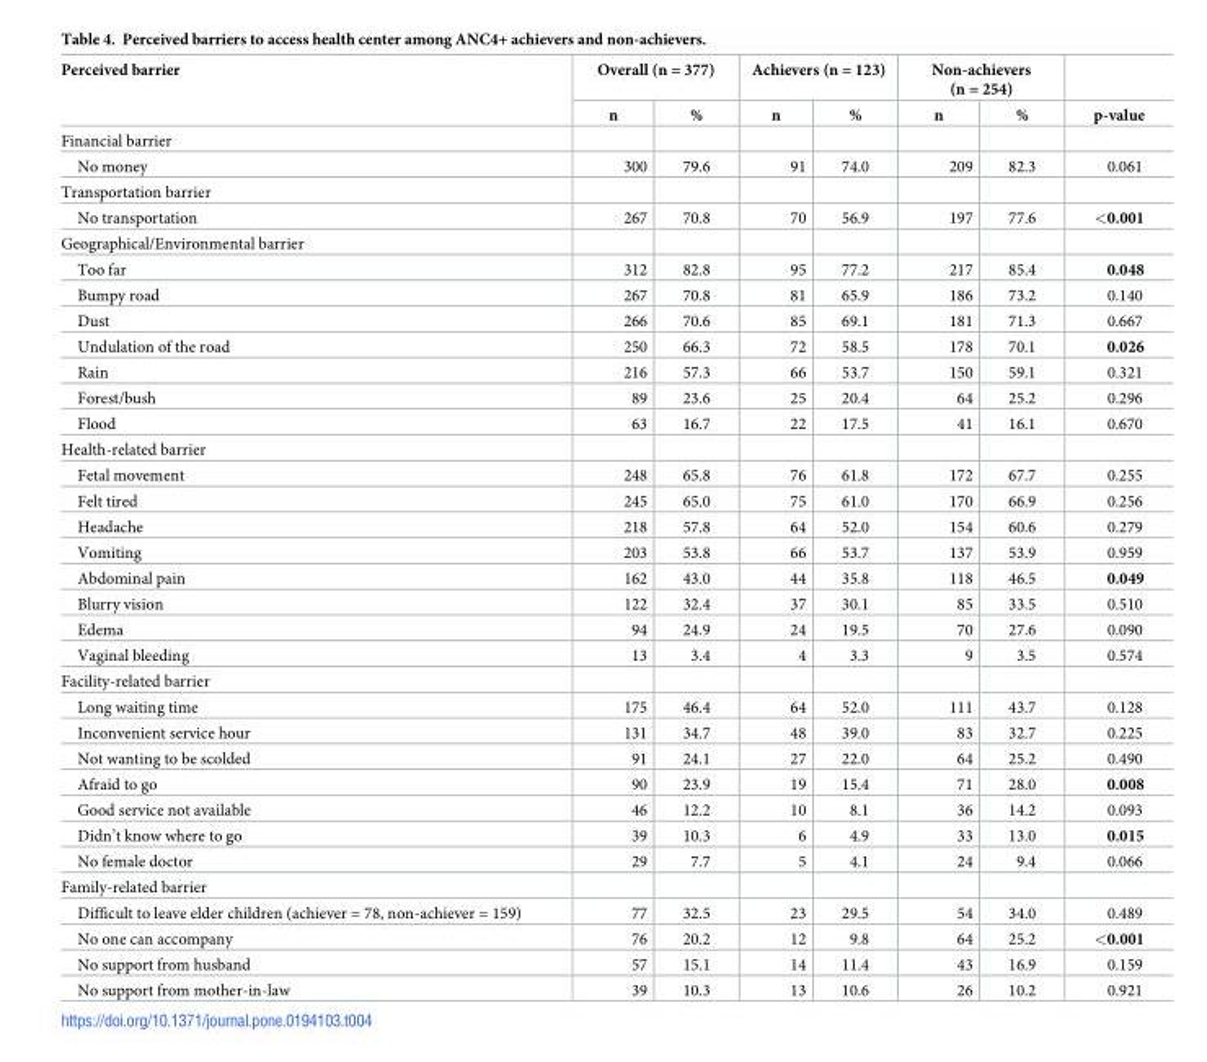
<table><thead><tr><td rowspan="2">Perceived barrier</td><td colspan="2">Overall (n = 377)</td><td colspan="2">Achievers (n = 123)</td><td colspan="2">Non-achievers (n = 254)</td><td rowspan="2">p-value</td></tr><tr><td>n</td><td>%</td><td>n</td><td>%</td><td>n</td><td>%</td></tr></thead><tbody><tr><td colspan="8">Financial barrier</td></tr><tr><td>No money</td><td>300</td><td>79.6</td><td>91</td><td>74.0</td><td>209</td><td>82.3</td><td>0.061</td></tr><tr><td colspan="8">Transportation barrier</td></tr><tr><td>No transportation</td><td>267</td><td>70.8</td><td>70</td><td>56.9</td><td>197</td><td>77.6</td><td>&lt;0.001</td></tr><tr><td colspan="8">Geographical/Environmental barrier</td></tr><tr><td>Too far</td><td>312</td><td>82.8</td><td>95</td><td>77.2</td><td>217</td><td>85.4</td><td>0.048</td></tr><tr><td>Bumpy road</td><td>267</td><td>70.8</td><td>81</td><td>65.9</td><td>186</td><td>73.2</td><td>0.140</td></tr><tr><td>Dust</td><td>266</td><td>70.6</td><td>85</td><td>69.1</td><td>181</td><td>71.3</td><td>0.667</td></tr><tr><td>Undulation of the road</td><td>250</td><td>66.3</td><td>72</td><td>58.5</td><td>178</td><td>70.1</td><td>0.026</td></tr><tr><td>Rain</td><td>216</td><td>57.3</td><td>66</td><td>53.7</td><td>150</td><td>59.1</td><td>0.321</td></tr><tr><td>Forest/bush</td><td>89</td><td>23.6</td><td>25</td><td>20.4</td><td>64</td><td>25.2</td><td>0.296</td></tr><tr><td>Flood</td><td>63</td><td>16.7</td><td>22</td><td>17.5</td><td>41</td><td>16.1</td><td>0.670</td></tr><tr><td colspan="8">Health-related barrier</td></tr><tr><td>Fetal movement</td><td>248</td><td>65.8</td><td>76</td><td>61.8</td><td>172</td><td>67.7</td><td>0.255</td></tr><tr><td>Felt tired</td><td>245</td><td>65.0</td><td>75</td><td>61.0</td><td>170</td><td>66.9</td><td>0.256</td></tr><tr><td>Headache</td><td>218</td><td>57.8</td><td>64</td><td>52.0</td><td>154</td><td>60.6</td><td>0.279</td></tr><tr><td>Vomiting</td><td>203</td><td>53.8</td><td>66</td><td>53.7</td><td>137</td><td>53.9</td><td>0.959</td></tr><tr><td>Abdominal pain</td><td>162</td><td>43.0</td><td>44</td><td>35.8</td><td>118</td><td>46.5</td><td>0.049</td></tr><tr><td>Blurry vision</td><td>122</td><td>32.4</td><td>37</td><td>30.1</td><td>85</td><td>33.5</td><td>0.510</td></tr><tr><td>Edema</td><td>94</td><td>24.9</td><td>24</td><td>19.5</td><td>70</td><td>27.6</td><td>0.090</td></tr><tr><td>Vaginal bleeding</td><td>13</td><td>3.4</td><td>4</td><td>3.3</td><td>9</td><td>3.5</td><td>0.574</td></tr><tr><td colspan="8">Facility-related barrier</td></tr><tr><td>Long waiting time</td><td>175</td><td>46.4</td><td>64</td><td>52.0</td><td>111</td><td>43.7</td><td>0.128</td></tr><tr><td>Inconvenient service hour</td><td>131</td><td>34.7</td><td>48</td><td>39.0</td><td>83</td><td>32.7</td><td>0.225</td></tr><tr><td>Not wanting to be scolded</td><td>91</td><td>24.1</td><td>27</td><td>22.0</td><td>64</td><td>25.2</td><td>0.490</td></tr><tr><td>Afraid to go</td><td>90</td><td>23.9</td><td>19</td><td>15.4</td><td>71</td><td>28.0</td><td>0.008</td></tr><tr><td>Good service not available</td><td>46</td><td>12.2</td><td>10</td><td>8.1</td><td>36</td><td>14.2</td><td>0.093</td></tr><tr><td>Didn’t know where to go</td><td>39</td><td>10.3</td><td>6</td><td>4.9</td><td>33</td><td>13.0</td><td>0.015</td></tr><tr><td>No female doctor</td><td>29</td><td>7.7</td><td>5</td><td>4.1</td><td>24</td><td>9.4</td><td>0.066</td></tr><tr><td colspan="8">Family-related barrier</td></tr><tr><td>Difficult to leave elder children (achiever = 78, non-achiever = 159)</td><td>77</td><td>32.5</td><td>23</td><td>29.5</td><td>54</td><td>34.0</td><td>0.489</td></tr><tr><td>No one can accompany</td><td>76</td><td>20.2</td><td>12</td><td>9.8</td><td>64</td><td>25.2</td><td>&lt;0.001</td></tr><tr><td>No support from husband</td><td>57</td><td>15.1</td><td>14</td><td>11.4</td><td>43</td><td>16.9</td><td>0.159</td></tr><tr><td>No support from mother-in-law</td><td>39</td><td>10.3</td><td>13</td><td>10.6</td><td>26</td><td>10.2</td><td>0.921</td></tr></tbody></table>